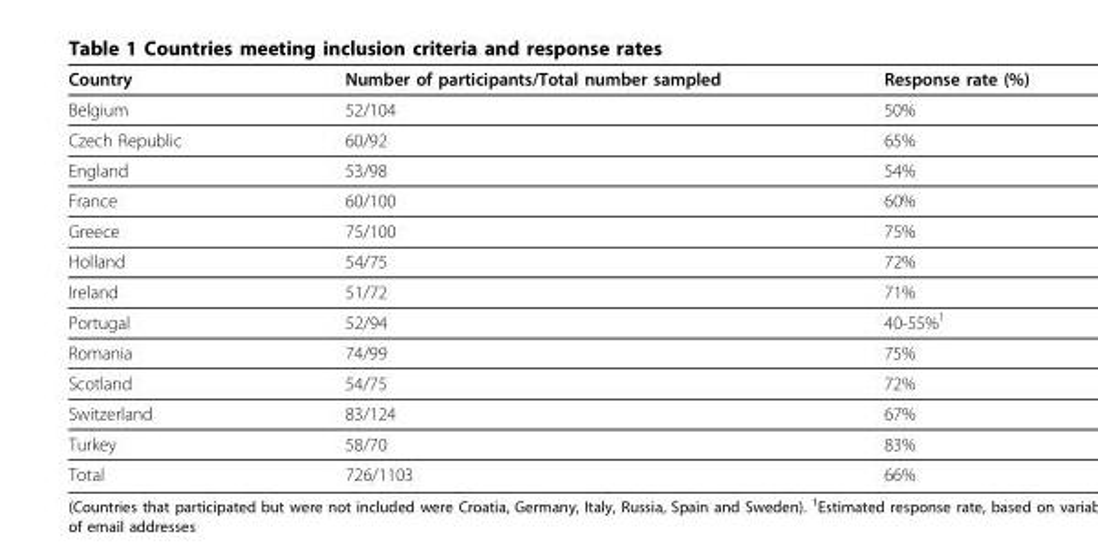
<table><thead><tr><td>Country</td><td>Number of participants/Total number sampled</td><td>Response rate (%)</td></tr></thead><tbody><tr><td>Belgium</td><td>52/104</td><td>50%</td></tr><tr><td>Czech Republic</td><td>60/92</td><td>65%</td></tr><tr><td>England</td><td>53/98</td><td>54%</td></tr><tr><td>France</td><td>60/100</td><td>60%</td></tr><tr><td>Greece</td><td>75/100</td><td>75%</td></tr><tr><td>Holland</td><td>54/75</td><td>72%</td></tr><tr><td>Ireland</td><td>51/72</td><td>71%</td></tr><tr><td>Portugal</td><td>52/94</td><td>40-55%<sup>1</sup></td></tr><tr><td>Romania</td><td>74/99</td><td>75%</td></tr><tr><td>Scotland</td><td>54/75</td><td>72%</td></tr><tr><td>Switzerland</td><td>83/124</td><td>67%</td></tr><tr><td>Turkey</td><td>58/70</td><td>83%</td></tr><tr><td>Total</td><td>726/1103</td><td>66%</td></tr></tbody></table>